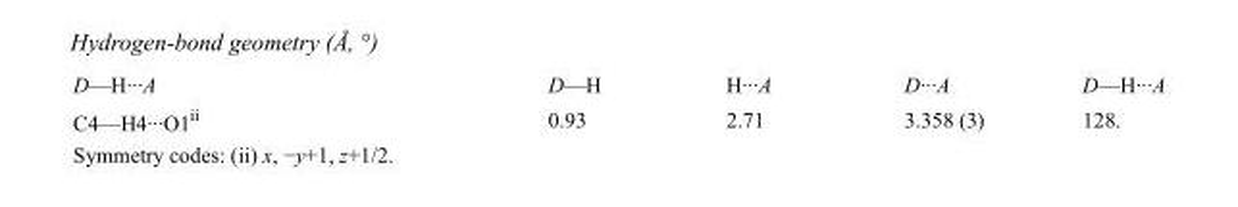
<table><tbody><tr><td>D—H···A</td><td>D—H</td><td>H···A</td><td>D···A</td><td>D—H···A</td></tr><tr><td>C4—H4···O1<sup>ii</sup></td><td>0.93</td><td>2.71</td><td>3.358 (3)</td><td>128.</td></tr></tbody></table>